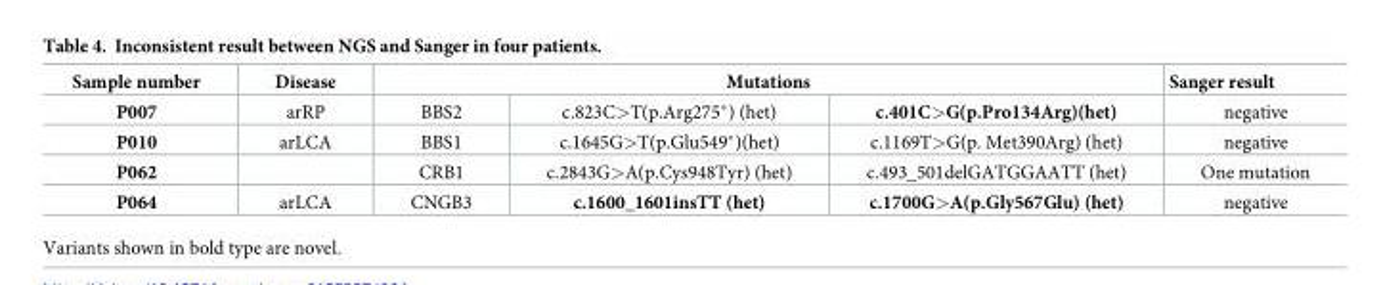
<table><thead><tr><td rowspan="2">Sample number P007</td><td rowspan="2">Disease arRP</td><td colspan="3">Mutations</td><td rowspan="2">Sanger result negative</td></tr><tr><td>BBS2</td><td>c.823C&gt;T(p.Arg275*) (het)</td><td>c.401C&gt;G(p.Pro134Arg)(het)</td></tr></thead><tbody><tr><td>P010</td><td>arLCA</td><td>BBS1</td><td>c.1645G&gt;T(p.Glu549*)(het)</td><td>c.1169T&gt;G(p. Met390Arg) (het)</td><td>negative</td></tr><tr><td>P062</td><td></td><td>CRB1</td><td>c.2843G&gt;A(p.Cys948Tyr) (het)</td><td>c.493_501delGATGGAATT (het)</td><td>One mutation</td></tr><tr><td>P064</td><td>arLCA</td><td>CNGB3</td><td>c.1600_1601insTT (het)</td><td>c.1700G&gt;A(p.Gly567Glu) (het)</td><td>negative</td></tr></tbody></table>